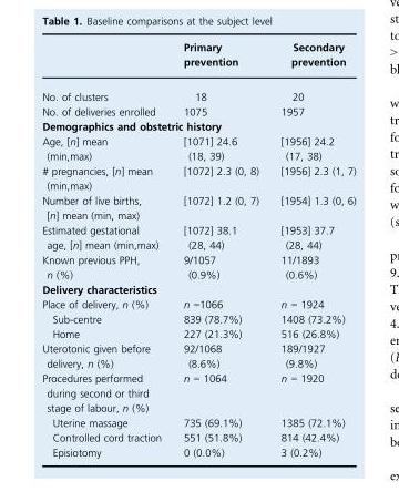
<table><thead><tr><td></td><td>Primary prevention</td><td>Secondary prevention</td></tr></thead><tbody><tr><td>No. of clusters</td><td>18</td><td>20</td></tr><tr><td>No. of deliveries enrolled</td><td>1075</td><td>1957</td></tr><tr><td colspan="3">Demographics and obstetric history</td></tr><tr><td>Age, [n] mean (min,max)</td><td>[1071] 24.6 (18, 39)</td><td>[1956] 24.2 (17, 38)</td></tr><tr><td># pregnancies, [n] mean (min,max)</td><td>[1072] 2.3 (0, 8)</td><td>[1956] 2.3 (1, 7)</td></tr><tr><td>Number of live births, [n] mean (min, max)</td><td>[1072] 1.2 (0, 7)</td><td>[1954] 1.3 (0, 6)</td></tr><tr><td>Estimated gestational age, [n] mean (min,max)</td><td>[1072] 38.1 (28, 44)</td><td>[1953] 37.7 (28, 44)</td></tr><tr><td>Known previous PPH, n (%)</td><td>9/1057 (0.9%)</td><td>11/1893 (0.6%)</td></tr><tr><td colspan="3">Delivery characteristics</td></tr><tr><td>Place of delivery, n (%)</td><td>n =1066</td><td>n = 1924</td></tr><tr><td>Sub-centre</td><td>839 (78.7%)</td><td>1408 (73.2%)</td></tr><tr><td>Home</td><td>227 (21.3%)</td><td>516 (26.8%)</td></tr><tr><td>Uterotonic given before delivery, n (%)</td><td>92/1068 (8.6%)</td><td>189/1927 (9.8%)</td></tr><tr><td>Procedures performed during second or third stage of labour, n (%)</td><td>n = 1064</td><td>n = 1920</td></tr><tr><td>Uterine massage</td><td>735 (69.1%)</td><td>1385 (72.1%)</td></tr><tr><td>Controlled cord traction</td><td>551 (51.8%)</td><td>814 (42.4%)</td></tr><tr><td>Episiotomy</td><td>0 (0.0%)</td><td>3 (0.2%)</td></tr></tbody></table>